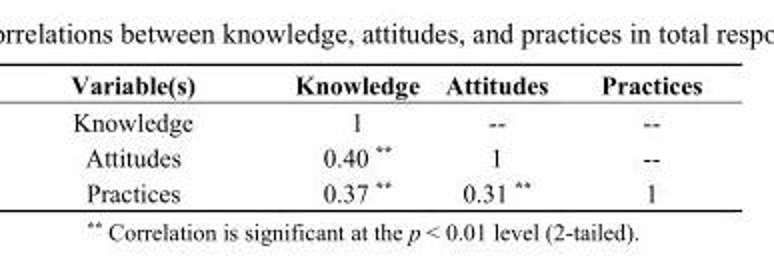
<table><thead><tr><td>Variable(s)</td><td>Knowledge</td><td>Attitudes</td><td>Practices</td></tr></thead><tbody><tr><td>Knowledge</td><td>1</td><td>--</td><td>--</td></tr><tr><td>Attitudes</td><td>0.40 **</td><td>1</td><td>--</td></tr><tr><td>Practices</td><td>0.37 **</td><td>0.31 **</td><td>1</td></tr></tbody></table>